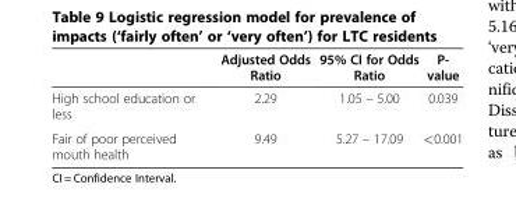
<table><thead><tr><td></td><td>Adjusted Odds Ratio</td><td>95% CI for Odds Ratio</td><td>P- value</td></tr></thead><tbody><tr><td>High school education or less</td><td>2.29</td><td>1.05 – 5.00</td><td>0.039</td></tr><tr><td>Fair of poor perceived mouth health</td><td>9.49</td><td>5.27 – 17.09</td><td>&lt;0.001</td></tr></tbody></table>